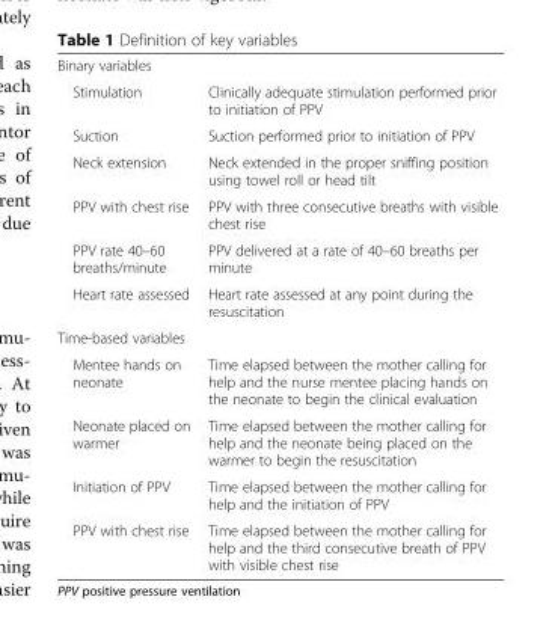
<table><tbody><tr><td colspan="2">Binary variables</td></tr><tr><td>Stimulation</td><td>Clinically adequate stimulation performed prior to initiation of PPV</td></tr><tr><td>Suction</td><td>Suction performed prior to initiation of PPV</td></tr><tr><td>Neck extension</td><td>Neck extended in the proper sniffing position using towel roll or head tilt</td></tr><tr><td>PPV with chest rise</td><td>PPV with three consecutive breaths with visible chest rise</td></tr><tr><td>PPV rate 40–60 breaths/minute</td><td>PPV delivered at a rate of 40–60 breaths per minute</td></tr><tr><td>Heart rate assessed</td><td>Heart rate assessed at any point during the resuscitation</td></tr><tr><td colspan="2">Time-based variables</td></tr><tr><td>Mentee hands on neonate</td><td>Time elapsed between the mother calling for help and the nurse mentee placing hands on the neonate to begin the clinical evaluation</td></tr><tr><td>Neonate placed on warmer</td><td>Time elapsed between the mother calling for help and the neonate being placed on the warmer to begin the resuscitation</td></tr><tr><td>Initiation of PPV</td><td>Time elapsed between the mother calling for help and the initiation of PPV</td></tr><tr><td>PPV with chest rise</td><td>Time elapsed between the mother calling for help and the third consecutive breath of PPV with visible chest rise</td></tr></tbody></table>